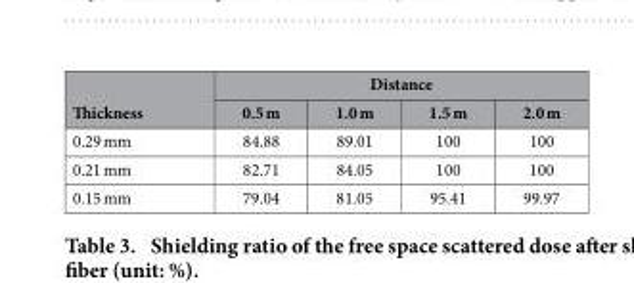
<table><thead><tr><td rowspan="2">Thickness</td><td colspan="4">Distance</td></tr><tr><td>0.5 m</td><td>1.0 m</td><td>1.5 m</td><td>2.0 m</td></tr></thead><tbody><tr><td>0.29 mm</td><td>84.88</td><td>89.01</td><td>100</td><td>100</td></tr><tr><td>0.21 mm</td><td>82.71</td><td>84.05</td><td>100</td><td>100</td></tr><tr><td>0.15 mm</td><td>79.04</td><td>81.05</td><td>95.41</td><td>99.97</td></tr></tbody></table>